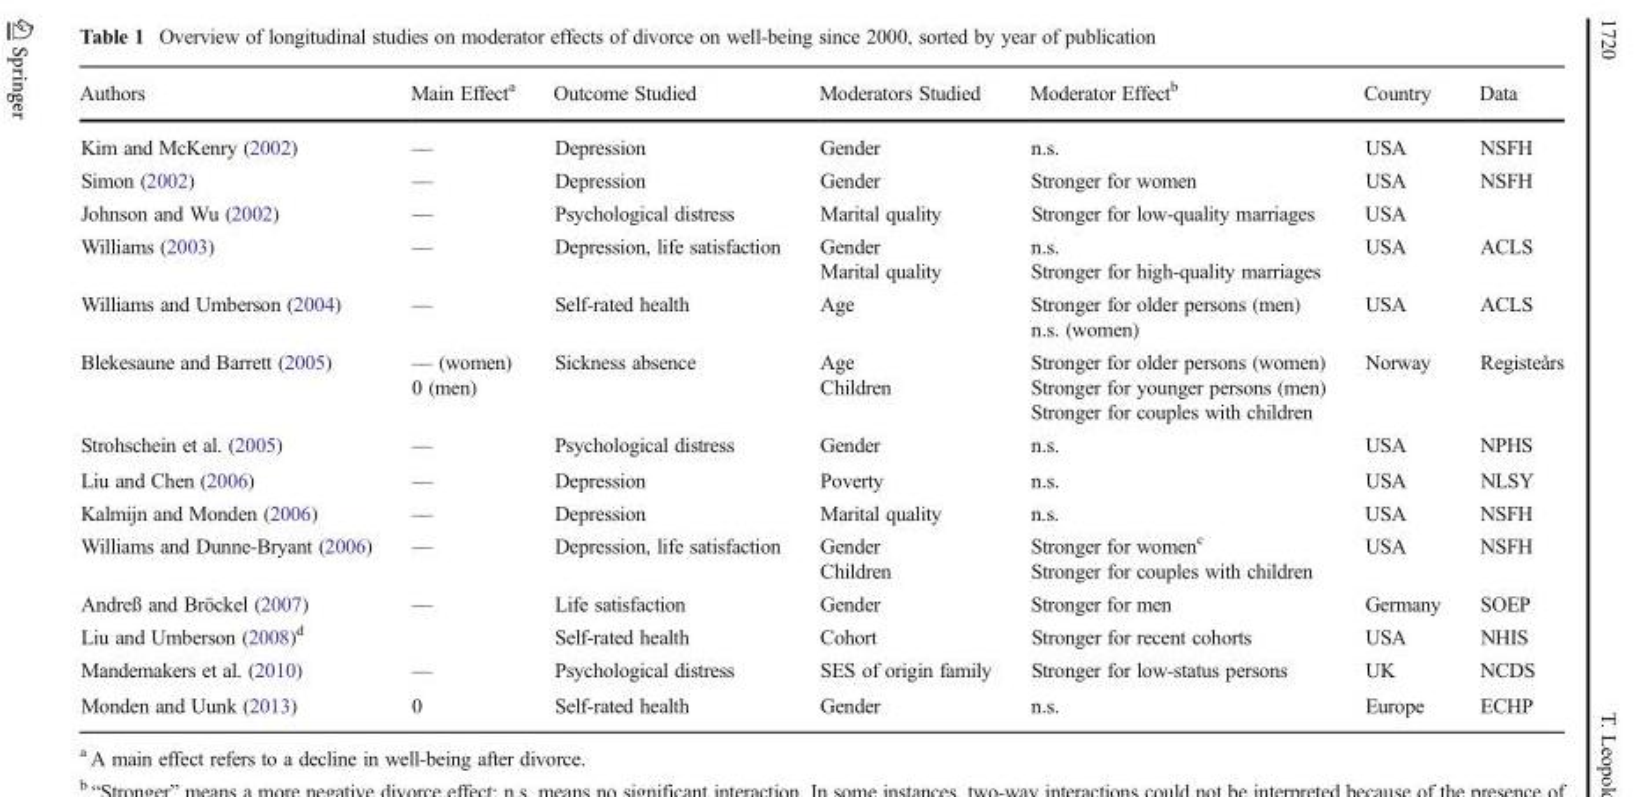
<table><thead><tr><td>Authors</td><td>Main Effect<sup>a</sup></td><td>Outcome Studied</td><td>Moderators Studied</td><td>Moderator Effect<sup>b</sup></td><td>Country</td><td>Data</td></tr></thead><tbody><tr><td>Kim and McKenry (2002)</td><td>––</td><td>Depression</td><td>Gender</td><td>n.s.</td><td>USA</td><td>NSFH</td></tr><tr><td>Simon (2002)</td><td>––</td><td>Depression</td><td>Gender</td><td>Stronger for women</td><td>USA</td><td>NSFH</td></tr><tr><td>Johnson and Wu (2002)</td><td>––</td><td>Psychological distress</td><td>Marital quality</td><td>Stronger for low-quality marriages</td><td>USA</td><td></td></tr><tr><td>Williams (2003)</td><td>––</td><td>Depression, life satisfaction</td><td>Gender Marital quality</td><td>n.s. Stronger for high-quality marriages</td><td>USA</td><td>ACLS</td></tr><tr><td>Williams and Umberson (2004)</td><td>––</td><td>Self-rated health</td><td>Age</td><td>Stronger for older persons (men) n.s. (women)</td><td>USA</td><td>ACLS</td></tr><tr><td>Blekesaune and Barrett (2005)</td><td>–– (women) 0 (men)</td><td>Sickness absence</td><td>Age Children</td><td>Stronger for older persons (women) Stronger for younger persons (men) Stronger for couples with children</td><td>Norway</td><td>Registeårs</td></tr><tr><td>Strohschein et al. (2005)</td><td>––</td><td>Psychological distress</td><td>Gender</td><td>n.s.</td><td>USA</td><td>NPHS</td></tr><tr><td>Liu and Chen (2006)</td><td>––</td><td>Depression</td><td>Poverty</td><td>n.s.</td><td>USA</td><td>NLSY</td></tr><tr><td>Kalmijn and Monden (2006)</td><td>––</td><td>Depression</td><td>Marital quality</td><td>n.s.</td><td>USA</td><td>NSFH</td></tr><tr><td>Williams and Dunne-Bryant (2006)</td><td>––</td><td>Depression, life satisfaction</td><td>Gender Children</td><td>Stronger for women<sup>c</sup> Stronger for couples with children</td><td>USA</td><td>NSFH</td></tr><tr><td>Andreß and Bröckel (2007)</td><td>––</td><td>Life satisfaction</td><td>Gender</td><td>Stronger for men</td><td>Germany</td><td>SOEP</td></tr><tr><td>Liu and Umberson (2008)<sup>d</sup></td><td></td><td>Self-rated health</td><td>Cohort</td><td>Stronger for recent cohorts</td><td>USA</td><td>NHIS</td></tr><tr><td>Mandemakers et al. (2010)</td><td>––</td><td>Psychological distress</td><td>SES of origin family</td><td>Stronger for low-status persons</td><td>UK</td><td>NCDS</td></tr><tr><td>Monden and Uunk (2013)</td><td>0</td><td>Self-rated health</td><td>Gender</td><td>n.s.</td><td>Europe</td><td>ECHP</td></tr></tbody></table>